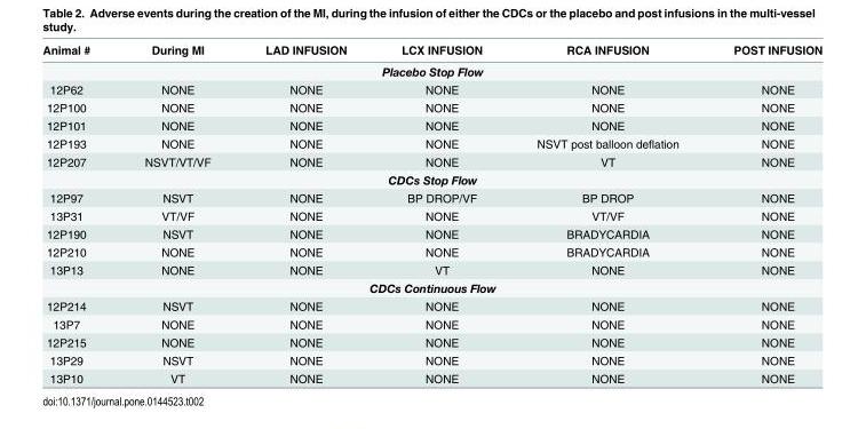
<table><thead><tr><td>Animal #</td><td>During MI</td><td>LAD INFUSION</td><td>LCX INFUSION</td><td>RCA INFUSION</td><td>POST INFUSION</td></tr></thead><tbody><tr><td colspan="6">Placebo Stop Flow</td></tr><tr><td>12P62</td><td>NONE</td><td>NONE</td><td>NONE</td><td>NONE</td><td>NONE</td></tr><tr><td>12P100</td><td>NONE</td><td>NONE</td><td>NONE</td><td>NONE</td><td>NONE</td></tr><tr><td>12P101</td><td>NONE</td><td>NONE</td><td>NONE</td><td>NONE</td><td>NONE</td></tr><tr><td>12P193</td><td>NONE</td><td>NONE</td><td>NONE</td><td>NSVT post balloon deflation</td><td>NONE</td></tr><tr><td>12P207</td><td>NSVT/VT/VF</td><td>NONE</td><td>NONE</td><td>VT</td><td>NONE</td></tr><tr><td colspan="6">CDCs Stop Flow</td></tr><tr><td>12P97</td><td>NSVT</td><td>NONE</td><td>BP DROP/VF</td><td>BP DROP</td><td>NONE</td></tr><tr><td>13P31</td><td>VT/VF</td><td>NONE</td><td>NONE</td><td>VT/VF</td><td>NONE</td></tr><tr><td>12P190</td><td>NSVT</td><td>NONE</td><td>NONE</td><td>BRADYCARDIA</td><td>NONE</td></tr><tr><td>12P210</td><td>NONE</td><td>NONE</td><td>NONE</td><td>BRADYCARDIA</td><td>NONE</td></tr><tr><td>13P13</td><td>NONE</td><td>NONE</td><td>VT</td><td>NONE</td><td>NONE</td></tr><tr><td colspan="6">CDCs Continuous Flow</td></tr><tr><td>12P214</td><td>NSVT</td><td>NONE</td><td>NONE</td><td>NONE</td><td>NONE</td></tr><tr><td>13P7</td><td>NONE</td><td>NONE</td><td>NONE</td><td>NONE</td><td>NONE</td></tr><tr><td>12P215</td><td>NONE</td><td>NONE</td><td>NONE</td><td>NONE</td><td>NONE</td></tr><tr><td>13P29</td><td>NSVT</td><td>NONE</td><td>NONE</td><td>NONE</td><td>NONE</td></tr><tr><td>13P10</td><td>VT</td><td>NONE</td><td>NONE</td><td>NONE</td><td>NONE</td></tr></tbody></table>